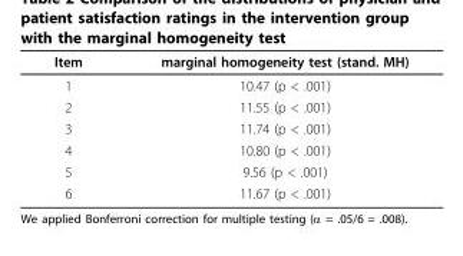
<table><thead><tr><td>Item</td><td>marginal homogeneity test (stand. MH)</td></tr></thead><tbody><tr><td>1</td><td>10.47 (p &lt; .001)</td></tr><tr><td>2</td><td>11.55 (p &lt; .001)</td></tr><tr><td>3</td><td>11.74 (p &lt; .001)</td></tr><tr><td>4</td><td>10.80 (p &lt; .001)</td></tr><tr><td>5</td><td>9.56 (p &lt; .001)</td></tr><tr><td>6</td><td>11.67 (p &lt; .001)</td></tr></tbody></table>